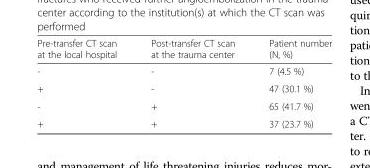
<table><thead><tr><td>Pre-transfer CT scan at the local hospital</td><td>Post-transfer CT scan at the trauma center</td><td>Patient number (N, %)</td></tr></thead><tbody><tr><td>-</td><td>-</td><td>7 (4.5 %)</td></tr><tr><td>+</td><td>-</td><td>47 (30.1 %)</td></tr><tr><td>-</td><td>+</td><td>65 (41.7 %)</td></tr><tr><td>+</td><td>+</td><td>37 (23.7 %)</td></tr></tbody></table>